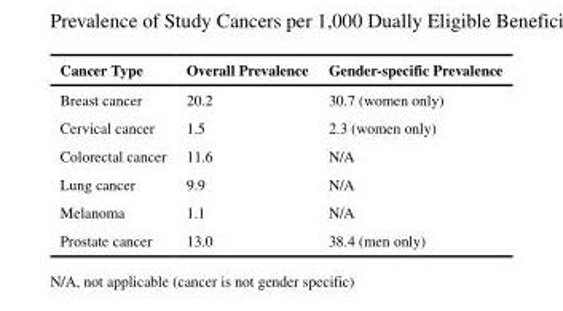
<table><thead><tr><td>Cancer Type</td><td>Overall Prevalence</td><td>Gender-specific Prevalence</td></tr></thead><tbody><tr><td>Breast cancer</td><td>20.2</td><td>30.7 (women only)</td></tr><tr><td>Cervical cancer</td><td>1.5</td><td>2.3 (women only)</td></tr><tr><td>Colorectal cancer</td><td>11.6</td><td>N/A</td></tr><tr><td>Lung cancer</td><td>9.9</td><td>N/A</td></tr><tr><td>Melanoma</td><td>1.1</td><td>N/A</td></tr><tr><td>Prostate cancer</td><td>13.0</td><td>38.4 (men only)</td></tr></tbody></table>